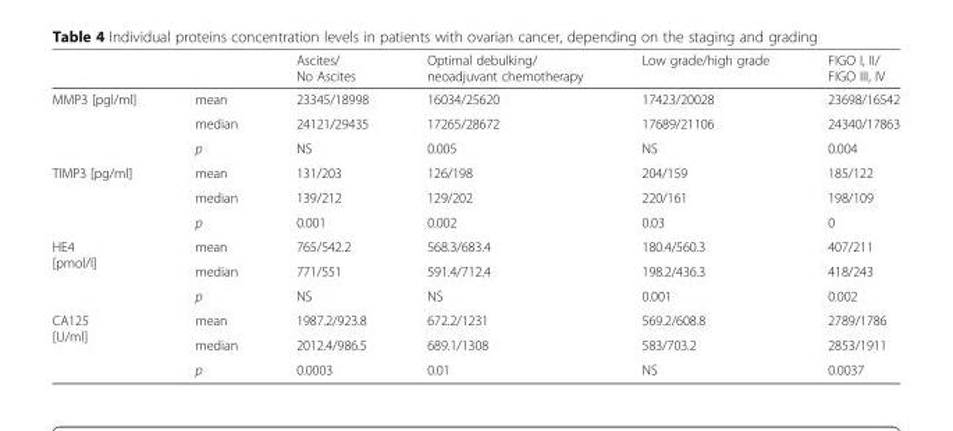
<table><thead><tr><td></td><td></td><td>Ascites/ No Ascites</td><td>Optimal debulking/ neoadjuvant chemotherapy</td><td>Low grade/high grade</td><td>FIGO I, II/ FIGO III, IV</td></tr></thead><tbody><tr><td rowspan="3">MMP3 [pgl/ml]</td><td>mean</td><td>23345/18998</td><td>16034/25620</td><td>17423/20028</td><td>23698/16542</td></tr><tr><td>median</td><td>24121/29435</td><td>17265/28672</td><td>17689/21106</td><td>24340/17863</td></tr><tr><td>p</td><td>NS</td><td>0.005</td><td>NS</td><td>0.004</td></tr><tr><td rowspan="3">TIMP3 [pg/ml]</td><td>mean</td><td>131/203</td><td>126/198</td><td>204/159</td><td>185/122</td></tr><tr><td>median</td><td>139/212</td><td>129/202</td><td>220/161</td><td>198/109</td></tr><tr><td>p</td><td>0.001</td><td>0.002</td><td>0.03</td><td>0</td></tr><tr><td rowspan="3">HE4 [pmol/l]</td><td>mean</td><td>765/542.2</td><td>568.3/683.4</td><td>180.4/560.3</td><td>407/211</td></tr><tr><td>median</td><td>771/551</td><td>591.4/712.4</td><td>198.2/436.3</td><td>418/243</td></tr><tr><td>p</td><td>NS</td><td>NS</td><td>0.001</td><td>0.002</td></tr><tr><td rowspan="3">CA125 [U/ml]</td><td>mean</td><td>1987.2/923.8</td><td>672.2/1231</td><td>569.2/608.8</td><td>2789/1786</td></tr><tr><td>median</td><td>2012.4/986.5</td><td>689.1/1308</td><td>583/703.2</td><td>2853/1911</td></tr><tr><td>p</td><td>0.0003</td><td>0.01</td><td>NS</td><td>0.0037</td></tr></tbody></table>